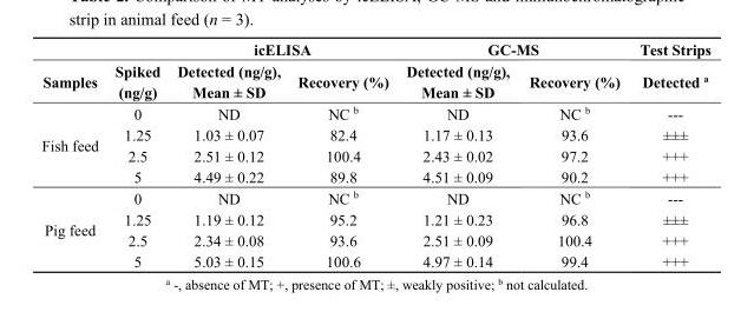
<table><thead><tr><td rowspan="2">Samples</td><td rowspan="2">Spiked (ng/g)</td><td colspan="2">icELISA</td><td colspan="2">GC-MS</td><td rowspan="2">Test Strips Detected <sup>a</sup></td></tr><tr><td>Detected (ng/g), Mean ± SD</td><td>Recovery (%)</td><td>Detected (ng/g), Mean ± SD</td><td>Recovery (%)</td></tr></thead><tbody><tr><td rowspan="4">Fish feed</td><td>0</td><td>ND</td><td>NC <sup>b</sup></td><td>ND</td><td>NC <sup>b</sup></td><td>---</td></tr><tr><td>1.25</td><td>1.03 ± 0.07</td><td>82.4</td><td>1.17 ± 0.13</td><td>93.6</td><td>±±±</td></tr><tr><td>2.5</td><td>2.51 ± 0.12</td><td>100.4</td><td>2.43 ± 0.02</td><td>97.2</td><td>+++</td></tr><tr><td>5</td><td>4.49 ± 0.22</td><td>89.8</td><td>4.51 ± 0.09</td><td>90.2</td><td>+++</td></tr><tr><td rowspan="4">Pig feed</td><td>0</td><td>ND</td><td>NC <sup>b</sup></td><td>ND</td><td>NC <sup>b</sup></td><td>---</td></tr><tr><td>1.25</td><td>1.19 ± 0.12</td><td>95.2</td><td>1.21 ± 0.23</td><td>96.8</td><td>±±±</td></tr><tr><td>2.5</td><td>2.34 ± 0.08</td><td>93.6</td><td>2.51 ± 0.09</td><td>100.4</td><td>+++</td></tr><tr><td>5</td><td>5.03 ± 0.15</td><td>100.6</td><td>4.97 ± 0.14</td><td>99.4</td><td>+++</td></tr></tbody></table>